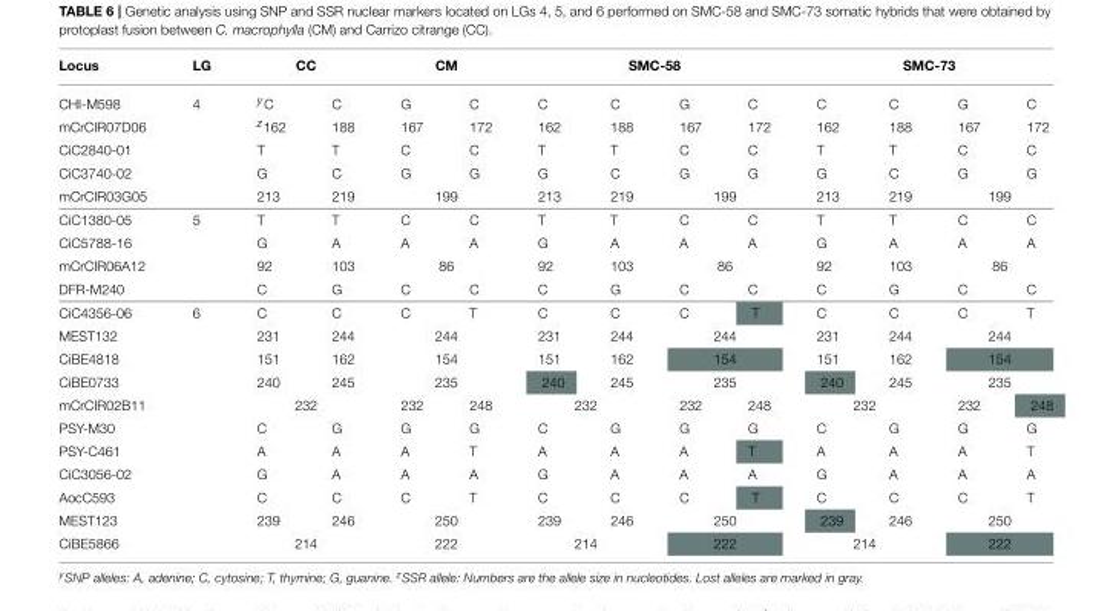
<table><thead><tr><td rowspan="2">Locus CHI-M598</td><td rowspan="2">LG 4</td><td colspan="2">CC</td><td colspan="2">CM</td><td colspan="4">SMC-58</td><td colspan="4">SMC-73</td></tr><tr><td>yC</td><td>C</td><td>G</td><td>C</td><td>C</td><td>C</td><td>G</td><td>C</td><td>C</td><td>C</td><td>G</td><td>C</td></tr></thead><tbody><tr><td>mCrCIR07D06</td><td></td><td>z162</td><td>188</td><td>167</td><td>172</td><td>162</td><td>188</td><td>167</td><td>172</td><td>162</td><td>188</td><td>167</td><td>172</td></tr><tr><td>CiC2840-01</td><td></td><td>T</td><td>T</td><td>C</td><td>C</td><td>T</td><td>T</td><td>C</td><td>C</td><td>T</td><td>T</td><td>C</td><td>C</td></tr><tr><td>CiC3740-02</td><td></td><td>G</td><td>C</td><td>G</td><td>G</td><td>G</td><td>C</td><td>G</td><td>G</td><td>G</td><td>C</td><td>G</td><td>G</td></tr><tr><td>mCrCIR03G05</td><td></td><td>213</td><td>219</td><td colspan="2">199</td><td>213</td><td>219</td><td colspan="2">199</td><td>213</td><td>219</td><td colspan="2">199</td></tr><tr><td>CiC1380-05</td><td>5</td><td>T</td><td>T</td><td>C</td><td>C</td><td>T</td><td>T</td><td>C</td><td>C</td><td>T</td><td>T</td><td>C</td><td>C</td></tr><tr><td>CiC5788-16</td><td></td><td>G</td><td>A</td><td>A</td><td>A</td><td>G</td><td>A</td><td>A</td><td>A</td><td>G</td><td>A</td><td>A</td><td>A</td></tr><tr><td>mCrCIR06A12</td><td></td><td>92</td><td>103</td><td colspan="2">86</td><td>92</td><td>103</td><td colspan="2">86</td><td>92</td><td>103</td><td colspan="2">86</td></tr><tr><td>DFR-M240</td><td></td><td>C</td><td>G</td><td>C</td><td>C</td><td>C</td><td>G</td><td>C</td><td>C</td><td>C</td><td>G</td><td>C</td><td>C</td></tr><tr><td>CiC4356-06</td><td>6</td><td>C</td><td>C</td><td>C</td><td>T</td><td>C</td><td>C</td><td>C</td><td>T</td><td>C</td><td>C</td><td>C</td><td>T</td></tr><tr><td>MEST132</td><td></td><td>231</td><td>244</td><td colspan="2">244</td><td>231</td><td>244</td><td colspan="2">244</td><td>231</td><td>244</td><td colspan="2">244</td></tr><tr><td>CiBE4818</td><td></td><td>151</td><td>162</td><td colspan="2">154</td><td>151</td><td>162</td><td colspan="2">154</td><td>151</td><td>162</td><td colspan="2">154</td></tr><tr><td>CiBE0733</td><td></td><td>240</td><td>245</td><td colspan="2">235</td><td>240</td><td>245</td><td colspan="2">235</td><td>240</td><td>245</td><td colspan="2">235</td></tr><tr><td>mCrCIR02B11</td><td></td><td colspan="2">232</td><td>232</td><td>248</td><td colspan="2">232</td><td>232</td><td>248</td><td colspan="2">232</td><td>232</td><td>248</td></tr><tr><td>PSY-M30</td><td></td><td>C</td><td>G</td><td>G</td><td>G</td><td>C</td><td>G</td><td>G</td><td>G</td><td>C</td><td>G</td><td>G</td><td>G</td></tr><tr><td>PSY-C461</td><td></td><td>A</td><td>A</td><td>A</td><td>T</td><td>A</td><td>A</td><td>A</td><td>T</td><td>A</td><td>A</td><td>A</td><td>T</td></tr><tr><td>CiC3056-02</td><td></td><td>G</td><td>A</td><td>A</td><td>A</td><td>G</td><td>A</td><td>A</td><td>A</td><td>G</td><td>A</td><td>A</td><td>A</td></tr><tr><td>AocC593</td><td></td><td>C</td><td>C</td><td>C</td><td>T</td><td>C</td><td>C</td><td>C</td><td>T</td><td>C</td><td>C</td><td>C</td><td>T</td></tr><tr><td>MEST123</td><td></td><td>239</td><td>246</td><td colspan="2">250</td><td>239</td><td>246</td><td colspan="2">250</td><td>239</td><td>246</td><td colspan="2">250</td></tr><tr><td>CiBE5866</td><td></td><td colspan="2">214</td><td colspan="2">222</td><td colspan="2">214</td><td colspan="2">222</td><td colspan="2">214</td><td colspan="2">222</td></tr></tbody></table>